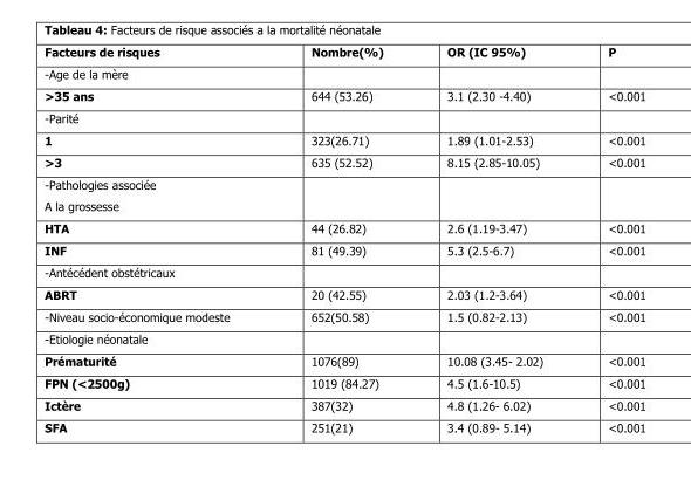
<table><thead><tr><td>Facteurs de risques</td><td>Nombre(%)</td><td>OR (IC 95%)</td><td>P</td></tr></thead><tbody><tr><td colspan="4">-Age de la mère</td></tr><tr><td>&gt;35 ans</td><td>644 (53.26)</td><td>3.1 (2.30 -4.40)</td><td>&lt;0.001</td></tr><tr><td colspan="4">-Parité</td></tr><tr><td>1</td><td>323(26.71)</td><td>1.89 (1.01-2.53)</td><td>&lt;0.001</td></tr><tr><td>&gt;3</td><td>635 (52.52)</td><td>8.15 (2.85-10.05)</td><td>&lt;0.001</td></tr><tr><td colspan="4">-Pathologies associée A la grossesse</td></tr><tr><td>HTA</td><td>44 (26.82)</td><td>2.6 (1.19-3.47)</td><td>&lt;0.001</td></tr><tr><td>INF</td><td>81 (49.39)</td><td>5.3 (2.5-6.7)</td><td>&lt;0.001</td></tr><tr><td colspan="4">-Antécédent obstétricaux</td></tr><tr><td>ABRT</td><td>20 (42.55)</td><td>2.03 (1.2-3.64)</td><td>&lt;0.001</td></tr><tr><td>-Niveau socio-économique modeste</td><td>652(50.58)</td><td>1.5 (0.82-2.13)</td><td>&lt;0.001</td></tr><tr><td colspan="4">-Etiologie néonatale</td></tr><tr><td>Prématurité</td><td>1076(89)</td><td>10.08 (3.45- 2.02)</td><td>&lt;0.001</td></tr><tr><td>FPN (&lt;2500g)</td><td>1019 (84.27)</td><td>4.5 (1.6-10.5)</td><td>&lt;0.001</td></tr><tr><td>Ictère</td><td>387(32)</td><td>4.8 (1.26- 6.02)</td><td>&lt;0.001</td></tr><tr><td>SFA</td><td>251(21)</td><td>3.4 (0.89- 5.14)</td><td>&lt;0.001</td></tr></tbody></table>